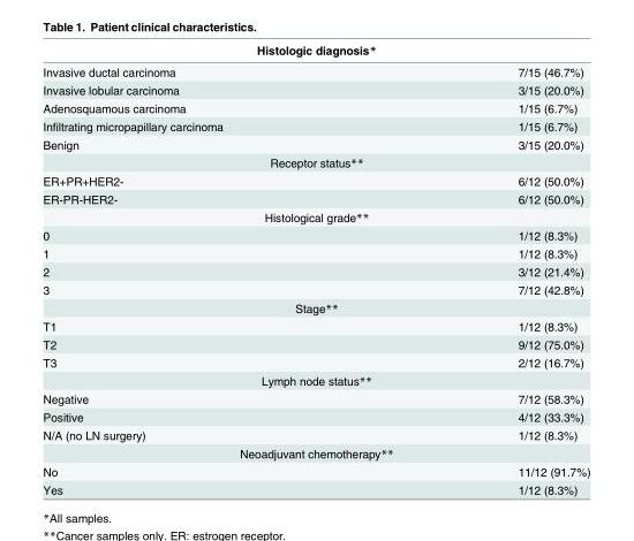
<table><thead><tr><td colspan="2">Histologic diagnosis*</td></tr><tr><td>Invasive ductal carcinoma</td><td>7/15 (46.7%)</td></tr></thead><tbody><tr><td>Invasive lobular carcinoma</td><td>3/15 (20.0%)</td></tr><tr><td>Adenosquamous carcinoma</td><td>1/15 (6.7%)</td></tr><tr><td>Infiltrating micropapillary carcinoma</td><td>1/15 (6.7%)</td></tr><tr><td>Benign</td><td>3/15 (20.0%)</td></tr><tr><td colspan="2">Receptor status**</td></tr><tr><td>ER+PR+HER2-</td><td>6/12 (50.0%)</td></tr><tr><td>ER-PR-HER2-</td><td>6/12 (50.0%)</td></tr><tr><td colspan="2">Histological grade**</td></tr><tr><td>0</td><td>1/12 (8.3%)</td></tr><tr><td>1</td><td>1/12 (8.3%)</td></tr><tr><td>2</td><td>3/12 (21.4%)</td></tr><tr><td>3</td><td>7/12 (42.8%)</td></tr><tr><td colspan="2">Stage**</td></tr><tr><td>T1</td><td>1/12 (8.3%)</td></tr><tr><td>T2</td><td>9/12 (75.0%)</td></tr><tr><td>T3</td><td>2/12 (16.7%)</td></tr><tr><td colspan="2">Lymph node status**</td></tr><tr><td>Negative</td><td>7/12 (58.3%)</td></tr><tr><td>Positive</td><td>4/12 (33.3%)</td></tr><tr><td>N/A (no LN surgery)</td><td>1/12 (8.3%)</td></tr><tr><td colspan="2">Neoadjuvant chemotherapy**</td></tr><tr><td>No</td><td>11/12 (91.7%)</td></tr><tr><td>Yes</td><td>1/12 (8.3%)</td></tr></tbody></table>